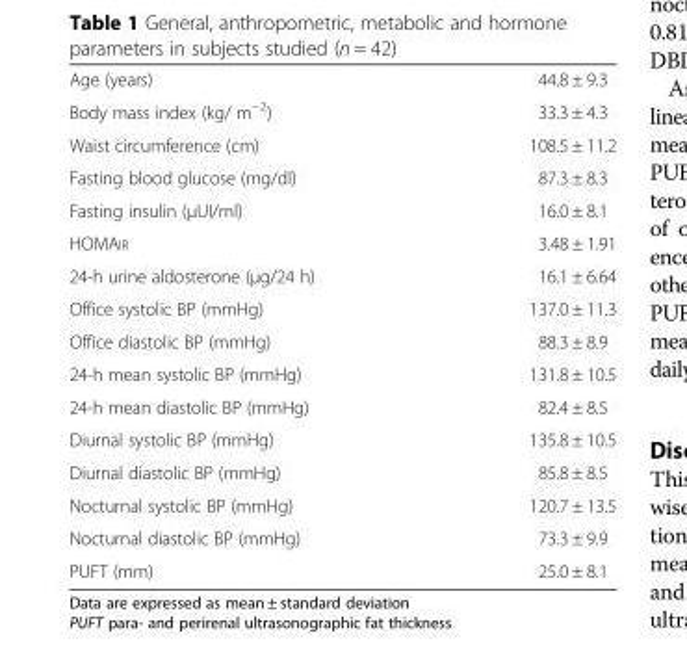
<table><tbody><tr><td>Age (years)</td><td>44.8 ± 9.3</td></tr><tr><td>Body mass index (kg/ m<sup>−2</sup>)</td><td>33.3 ± 4.3</td></tr><tr><td>Waist circumference (cm)</td><td>108.5 ± 11.2</td></tr><tr><td>Fasting blood glucose (mg/dl)</td><td>87.3 ± 8.3</td></tr><tr><td>Fasting insulin (μUI/ml)</td><td>16.0 ± 8.1</td></tr><tr><td>HOMAIR</td><td>3.48 ± 1.91</td></tr><tr><td>24-h urine aldosterone (μg/24 h)</td><td>16.1 ± 6.64</td></tr><tr><td>Office systolic BP (mmHg)</td><td>137.0 ± 11.3</td></tr><tr><td>Office diastolic BP (mmHg)</td><td>88.3 ± 8.9</td></tr><tr><td>24-h mean systolic BP (mmHg)</td><td>131.8 ± 10.5</td></tr><tr><td>24-h mean diastolic BP (mmHg)</td><td>82.4 ± 8.5</td></tr><tr><td>Diurnal systolic BP (mmHg)</td><td>135.8 ± 10.5</td></tr><tr><td>Diurnal diastolic BP (mmHg)</td><td>85.8 ± 8.5</td></tr><tr><td>Nocturnal systolic BP (mmHg)</td><td>120.7 ± 13.5</td></tr><tr><td>Nocturnal diastolic BP (mmHg)</td><td>73.3 ± 9.9</td></tr><tr><td>PUFT (mm)</td><td>25.0 ± 8.1</td></tr></tbody></table>